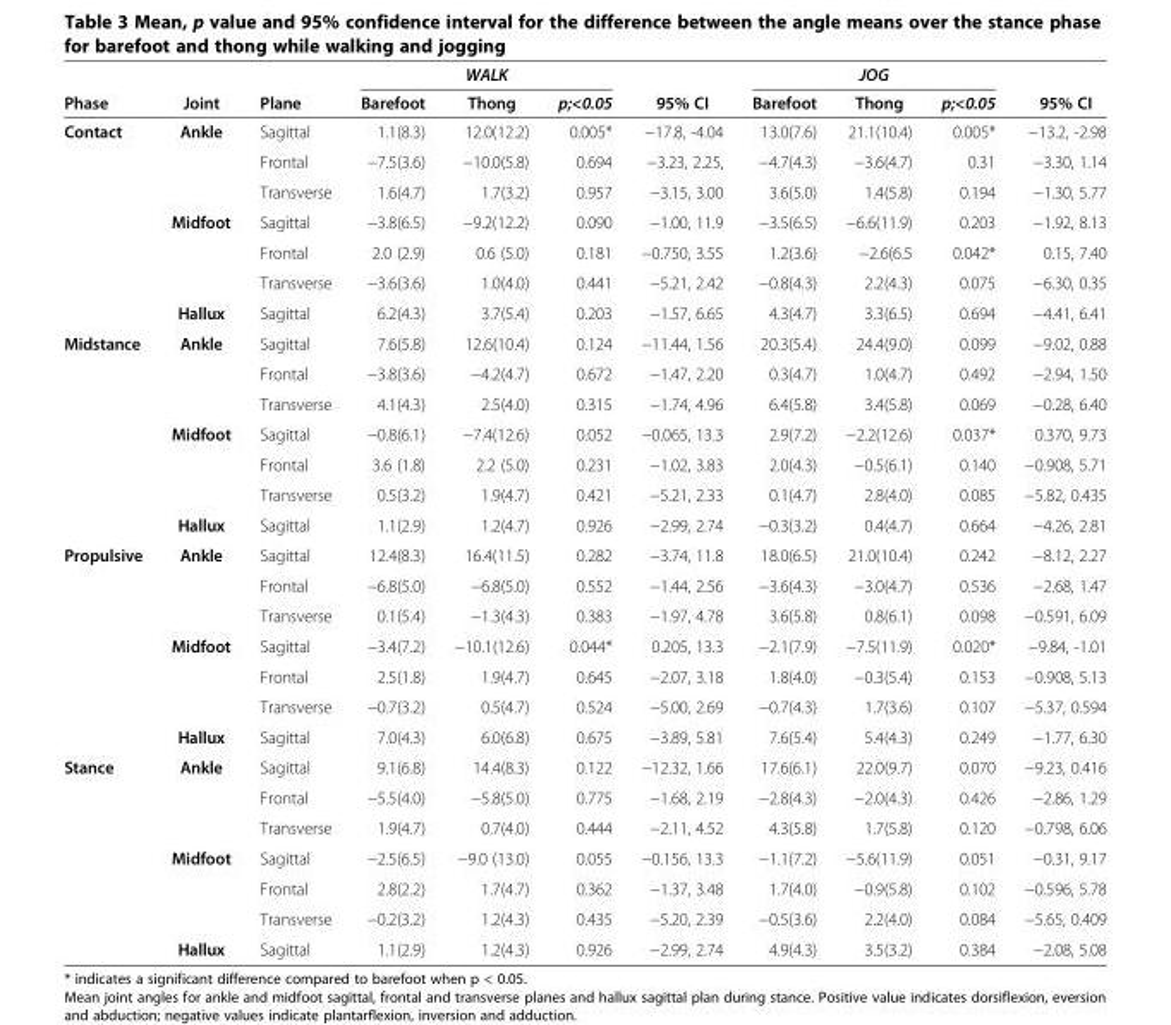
<table><thead><tr><td rowspan="2">Phase</td><td rowspan="2">Joint</td><td rowspan="2">Plane</td><td colspan="3">WALK</td><td rowspan="2">95% CI</td><td colspan="3">JOG</td><td rowspan="2">95% CI</td></tr><tr><td>Barefoot</td><td>Thong</td><td>p;&lt;0.05</td><td>Barefoot</td><td>Thong</td><td>p;&lt;0.05</td></tr></thead><tbody><tr><td rowspan="7">Contact</td><td rowspan="3">Ankle</td><td>Sagittal</td><td>1.1(8.3)</td><td>12.0(12.2)</td><td>0.005*</td><td>−17.8, -4.04</td><td>13.0(7.6)</td><td>21.1(10.4)</td><td>0.005*</td><td>−13.2, -2.98</td></tr><tr><td>Frontal</td><td>−7.5(3.6)</td><td>−10.0(5.8)</td><td>0.694</td><td>−3.23, 2.25,</td><td>−4.7(4.3)</td><td>−3.6(4.7)</td><td>0.31</td><td>−3.30, 1.14</td></tr><tr><td>Transverse</td><td>1.6(4.7)</td><td>1.7(3.2)</td><td>0.957</td><td>−3.15, 3.00</td><td>3.6(5.0)</td><td>1.4(5.8)</td><td>0.194</td><td>−1.30, 5.77</td></tr><tr><td rowspan="3">Midfoot</td><td>Sagittal</td><td>−3.8(6.5)</td><td>−9.2(12.2)</td><td>0.090</td><td>−1.00, 11.9</td><td>−3.5(6.5)</td><td>−6.6(11.9)</td><td>0.203</td><td>−1.92, 8.13</td></tr><tr><td>Frontal</td><td>2.0 (2.9)</td><td>0.6 (5.0)</td><td>0.181</td><td>−0.750, 3.55</td><td>1.2(3.6)</td><td>−2.6(6.5</td><td>0.042*</td><td>0.15, 7.40</td></tr><tr><td>Transverse</td><td>−3.6(3.6)</td><td>1.0(4.0)</td><td>0.441</td><td>−5.21, 2.42</td><td>−0.8(4.3)</td><td>2.2(4.3)</td><td>0.075</td><td>−6.30, 0.35</td></tr><tr><td>Hallux</td><td>Sagittal</td><td>6.2(4.3)</td><td>3.7(5.4)</td><td>0.203</td><td>−1.57, 6.65</td><td>4.3(4.7)</td><td>3.3(6.5)</td><td>0.694</td><td>−4.41, 6.41</td></tr><tr><td rowspan="7">Midstance</td><td rowspan="3">Ankle</td><td>Sagittal</td><td>7.6(5.8)</td><td>12.6(10.4)</td><td>0.124</td><td>−11.44, 1.56</td><td>20.3(5.4)</td><td>24.4(9.0)</td><td>0.099</td><td>−9.02, 0.88</td></tr><tr><td>Frontal</td><td>−3.8(3.6)</td><td>−4.2(4.7)</td><td>0.672</td><td>−1.47, 2.20</td><td>0.3(4.7)</td><td>1.0(4.7)</td><td>0.492</td><td>−2.94, 1.50</td></tr><tr><td>Transverse</td><td>4.1(4.3)</td><td>2.5(4.0)</td><td>0.315</td><td>−1.74, 4.96</td><td>6.4(5.8)</td><td>3.4(5.8)</td><td>0.069</td><td>−0.28, 6.40</td></tr><tr><td rowspan="3">Midfoot</td><td>Sagittal</td><td>−0.8(6.1)</td><td>−7.4(12.6)</td><td>0.052</td><td>−0.065, 13.3</td><td>2.9(7.2)</td><td>−2.2(12.6)</td><td>0.037*</td><td>0.370, 9.73</td></tr><tr><td>Frontal</td><td>3.6 (1.8)</td><td>2.2 (5.0)</td><td>0.231</td><td>−1.02, 3.83</td><td>2.0(4.3)</td><td>−0.5(6.1)</td><td>0.140</td><td>−0.908, 5.71</td></tr><tr><td>Transverse</td><td>0.5(3.2)</td><td>1.9(4.7)</td><td>0.421</td><td>−5.21, 2.33</td><td>0.1(4.7)</td><td>2.8(4.0)</td><td>0.085</td><td>−5.82, 0.435</td></tr><tr><td>Hallux</td><td>Sagittal</td><td>1.1(2.9)</td><td>1.2(4.7)</td><td>0.926</td><td>−2.99, 2.74</td><td>−0.3(3.2)</td><td>0.4(4.7)</td><td>0.664</td><td>−4.26, 2.81</td></tr><tr><td rowspan="7">Propulsive</td><td rowspan="3">Ankle</td><td>Sagittal</td><td>12.4(8.3)</td><td>16.4(11.5)</td><td>0.282</td><td>−3.74, 11.8</td><td>18.0(6.5)</td><td>21.0(10.4)</td><td>0.242</td><td>−8.12, 2.27</td></tr><tr><td>Frontal</td><td>−6.8(5.0)</td><td>−6.8(5.0)</td><td>0.552</td><td>−1.44, 2.56</td><td>−3.6(4.3)</td><td>−3.0(4.7)</td><td>0.536</td><td>−2.68, 1.47</td></tr><tr><td>Transverse</td><td>0.1(5.4)</td><td>−1.3(4.3)</td><td>0.383</td><td>−1.97, 4.78</td><td>3.6(5.8)</td><td>0.8(6.1)</td><td>0.098</td><td>−0.591, 6.09</td></tr><tr><td rowspan="3">Midfoot</td><td>Sagittal</td><td>−3.4(7.2)</td><td>−10.1(12.6)</td><td>0.044*</td><td>0.205, 13.3</td><td>−2.1(7.9)</td><td>−7.5(11.9)</td><td>0.020*</td><td>−9.84, -1.01</td></tr><tr><td>Frontal</td><td>2.5(1.8)</td><td>1.9(4.7)</td><td>0.645</td><td>−2.07, 3.18</td><td>1.8(4.0)</td><td>−0.3(5.4)</td><td>0.153</td><td>−0.908, 5.13</td></tr><tr><td>Transverse</td><td>−0.7(3.2)</td><td>0.5(4.7)</td><td>0.524</td><td>−5.00, 2.69</td><td>−0.7(4.3)</td><td>1.7(3.6)</td><td>0.107</td><td>−5.37, 0.594</td></tr><tr><td>Hallux</td><td>Sagittal</td><td>7.0(4.3)</td><td>6.0(6.8)</td><td>0.675</td><td>−3.89, 5.81</td><td>7.6(5.4)</td><td>5.4(4.3)</td><td>0.249</td><td>−1.77, 6.30</td></tr><tr><td rowspan="7">Stance</td><td rowspan="3">Ankle</td><td>Sagittal</td><td>9.1(6.8)</td><td>14.4(8.3)</td><td>0.122</td><td>−12.32, 1.66</td><td>17.6(6.1)</td><td>22.0(9.7)</td><td>0.070</td><td>−9.23, 0.416</td></tr><tr><td>Frontal</td><td>−5.5(4.0)</td><td>−5.8(5.0)</td><td>0.775</td><td>−1.68, 2.19</td><td>−2.8(4.3)</td><td>−2.0(4.3)</td><td>0.426</td><td>−2.86, 1.29</td></tr><tr><td>Transverse</td><td>1.9(4.7)</td><td>0.7(4.0)</td><td>0.444</td><td>−2.11, 4.52</td><td>4.3(5.8)</td><td>1.7(5.8)</td><td>0.120</td><td>−0.798, 6.06</td></tr><tr><td rowspan="3">Midfoot</td><td>Sagittal</td><td>−2.5(6.5)</td><td>−9.0 (13.0)</td><td>0.055</td><td>−0.156, 13.3</td><td>−1.1(7.2)</td><td>−5.6(11.9)</td><td>0.051</td><td>−0.31, 9.17</td></tr><tr><td>Frontal</td><td>2.8(2.2)</td><td>1.7(4.7)</td><td>0.362</td><td>−1.37, 3.48</td><td>1.7(4.0)</td><td>−0.9(5.8)</td><td>0.102</td><td>−0.596, 5.78</td></tr><tr><td>Transverse</td><td>−0.2(3.2)</td><td>1.2(4.3)</td><td>0.435</td><td>−5.20, 2.39</td><td>−0.5(3.6)</td><td>2.2(4.0)</td><td>0.084</td><td>−5.65, 0.409</td></tr><tr><td>Hallux</td><td>Sagittal</td><td>1.1(2.9)</td><td>1.2(4.3)</td><td>0.926</td><td>−2.99, 2.74</td><td>4.9(4.3)</td><td>3.5(3.2)</td><td>0.384</td><td>−2.08, 5.08</td></tr></tbody></table>